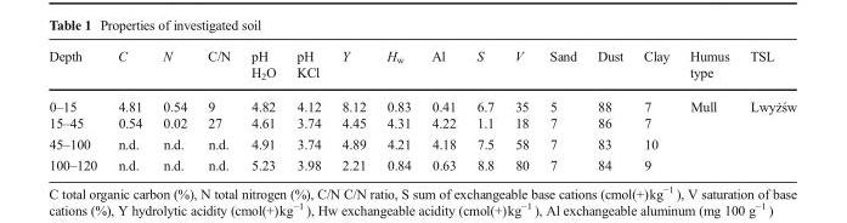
<table><thead><tr><td>Depth</td><td>C</td><td>N</td><td>C/N</td><td>pH H<sub>2</sub>O</td><td>pH KCl</td><td>Y</td><td>H<sub>w</sub></td><td>Al</td><td>S</td><td>V</td><td>Sand</td><td>Dust</td><td>Clay</td><td>Humus type</td><td>TSL</td></tr></thead><tbody><tr><td>0–15</td><td>4.81</td><td>0.54</td><td>9</td><td>4.82</td><td>4.12</td><td>8.12</td><td>0.83</td><td>0.41</td><td>6.7</td><td>35</td><td>5</td><td>88</td><td>7</td><td rowspan="4">Mull</td><td rowspan="4">Lwyżśw</td></tr><tr><td>15–45</td><td>0.54</td><td>0.02</td><td>27</td><td>4.61</td><td>3.74</td><td>4.45</td><td>4.31</td><td>4.22</td><td>1.1</td><td>18</td><td>7</td><td>86</td><td>7</td></tr><tr><td>45–100</td><td>n.d.</td><td>n.d.</td><td>n.d.</td><td>4.91</td><td>3.74</td><td>4.89</td><td>4.21</td><td>4.18</td><td>7.5</td><td>58</td><td>7</td><td>83</td><td>10</td></tr><tr><td>100–120</td><td>n.d.</td><td>n.d.</td><td>n.d.</td><td>5.23</td><td>3.98</td><td>2.21</td><td>0.84</td><td>0.63</td><td>8.8</td><td>80</td><td>7</td><td>84</td><td>9</td></tr></tbody></table>